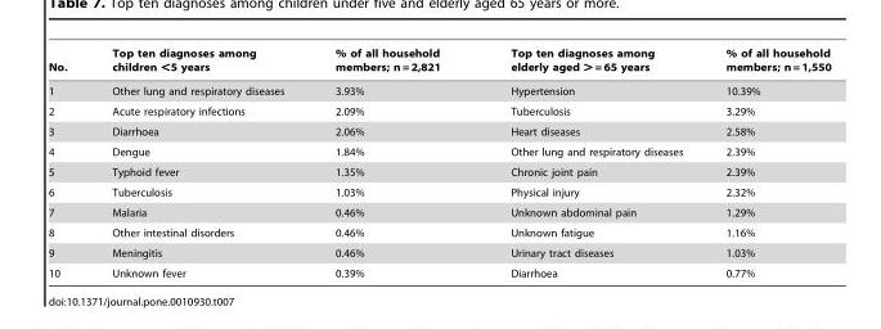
<table><thead><tr><td>No.</td><td>Top ten diagnoses among children &lt;5 years</td><td>% of all household members; n = 2,821</td><td>Top ten diagnoses among elderly aged &gt; = 65 years</td><td>% of all household members; n = 1,550</td></tr></thead><tbody><tr><td>1</td><td>Other lung and respiratory diseases</td><td>3.93%</td><td>Hypertension</td><td>10.39%</td></tr><tr><td>2</td><td>Acute respiratory infections</td><td>2.09%</td><td>Tuberculosis</td><td>3.29%</td></tr><tr><td>3</td><td>Diarrhoea</td><td>2.06%</td><td>Heart diseases</td><td>2.58%</td></tr><tr><td>4</td><td>Dengue</td><td>1.84%</td><td>Other lung and respiratory diseases</td><td>2.39%</td></tr><tr><td>5</td><td>Typhoid fever</td><td>1.35%</td><td>Chronic joint pain</td><td>2.39%</td></tr><tr><td>6</td><td>Tuberculosis</td><td>1.03%</td><td>Physical injury</td><td>2.32%</td></tr><tr><td>7</td><td>Malaria</td><td>0.46%</td><td>Unknown abdominal pain</td><td>1.29%</td></tr><tr><td>8</td><td>Other intestinal disorders</td><td>0.46%</td><td>Unknown fatigue</td><td>1.16%</td></tr><tr><td>9</td><td>Meningitis</td><td>0.46%</td><td>Urinary tract diseases</td><td>1.03%</td></tr><tr><td>10</td><td>Unknown fever</td><td>0.39%</td><td>Diarrhoea</td><td>0.77%</td></tr></tbody></table>